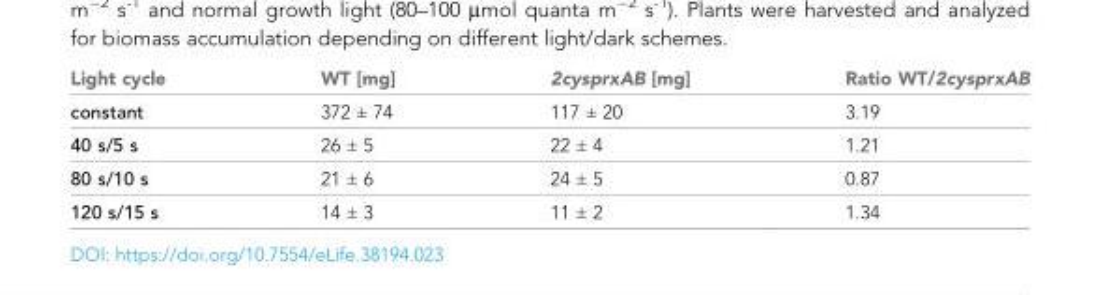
<table><thead><tr><td>Light cycle</td><td>WT [mg]</td><td>2cysprxAB [mg]</td><td>Ratio WT/2cysprxAB</td></tr></thead><tbody><tr><td>constant</td><td>372 ± 74</td><td>117 ± 20</td><td>3.19</td></tr><tr><td>40 s/5 s</td><td>26 ± 5</td><td>22 ± 4</td><td>1.21</td></tr><tr><td>80 s/10 s</td><td>21 ± 6</td><td>24 ± 5</td><td>0.87</td></tr><tr><td>120 s/15 s</td><td>14 ± 3</td><td>11 ± 2</td><td>1.34</td></tr></tbody></table>